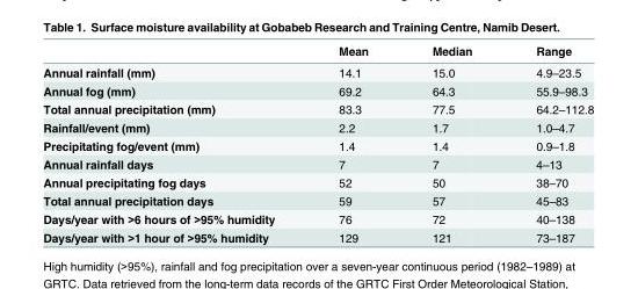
<table><thead><tr><td></td><td>Mean</td><td>Median</td><td>Range</td></tr></thead><tbody><tr><td>Annual rainfall (mm)</td><td>14.1</td><td>15.0</td><td>4.9–23.5</td></tr><tr><td>Annual fog (mm)</td><td>69.2</td><td>64.3</td><td>55.9–98.3</td></tr><tr><td>Total annual precipitation (mm)</td><td>83.3</td><td>77.5</td><td>64.2–112.8</td></tr><tr><td>Rainfall/event (mm)</td><td>2.2</td><td>1.7</td><td>1.0–4.7</td></tr><tr><td>Precipitating fog/event (mm)</td><td>1.4</td><td>1.4</td><td>0.9–1.8</td></tr><tr><td>Annual rainfall days</td><td>7</td><td>7</td><td>4–13</td></tr><tr><td>Annual precipitating fog days</td><td>52</td><td>50</td><td>38–70</td></tr><tr><td>Total annual precipitation days</td><td>59</td><td>57</td><td>45–83</td></tr><tr><td>Days/year with &gt;6 hours of &gt;95% humidity</td><td>76</td><td>72</td><td>40–138</td></tr><tr><td>Days/year with &gt;1 hour of &gt;95% humidity</td><td>129</td><td>121</td><td>73–187</td></tr></tbody></table>